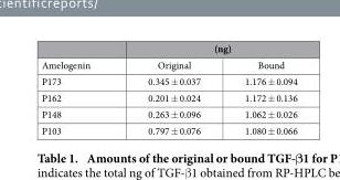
<table><thead><tr><td rowspan="2">Amelogenin</td><td colspan="2">(ng)</td></tr><tr><td>Original</td><td>Bound</td></tr></thead><tbody><tr><td>P173</td><td>0.345 ± 0.037</td><td>1.176 ± 0.094</td></tr><tr><td>P162</td><td>0.201 ± 0.024</td><td>1.172 ± 0.136</td></tr><tr><td>P148</td><td>0.263 ± 0.096</td><td>1.062 ± 0.026</td></tr><tr><td>P103</td><td>0.797 ± 0.076</td><td>1.080 ± 0.066</td></tr></tbody></table>